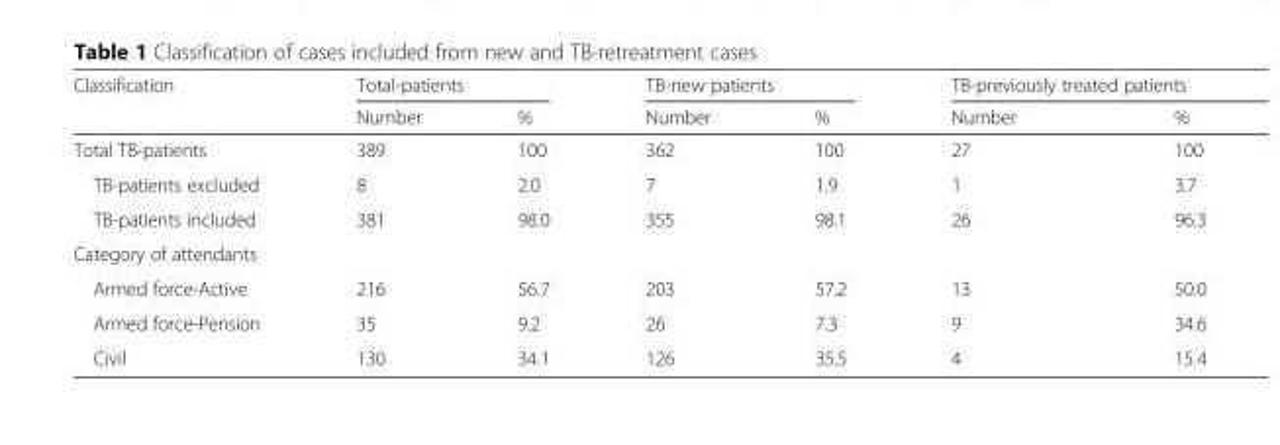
<table><thead><tr><td rowspan="2">Classification</td><td colspan="2">Total-patients</td><td colspan="2">TB-new patients</td><td colspan="2">TB-previously treated patients</td></tr><tr><td>Number</td><td>%</td><td>Number</td><td>%</td><td>Number</td><td>%</td></tr></thead><tbody><tr><td>Total TB-patients</td><td>389</td><td>100</td><td>362</td><td>100</td><td>27</td><td>100</td></tr><tr><td>TB-patients excluded</td><td>8</td><td>2.0</td><td>7</td><td>1.9</td><td>1</td><td>3.7</td></tr><tr><td>TB-patients included</td><td>381</td><td>98.0</td><td>355</td><td>98.1</td><td>26</td><td>96.3</td></tr><tr><td colspan="7">Category of attendants</td></tr><tr><td>Armed force-Active</td><td>216</td><td>56.7</td><td>203</td><td>57.2</td><td>13</td><td>50.0</td></tr><tr><td>Armed force-Pension</td><td>35</td><td>9.2</td><td>26</td><td>7.3</td><td>9</td><td>34.6</td></tr><tr><td>Civil</td><td>130</td><td>34.1</td><td>126</td><td>35.5</td><td>4</td><td>15.4</td></tr></tbody></table>